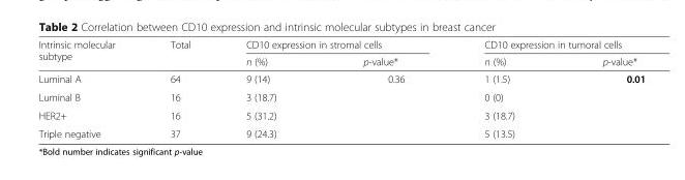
<table><thead><tr><td rowspan="2">Intrinsic molecular subtype</td><td rowspan="2">Total</td><td colspan="2">CD10 expression in stromal cells</td><td colspan="2">CD10 expression in tumoral cells</td></tr><tr><td>n (%)</td><td>p-value*</td><td>n (%)</td><td>p-value*</td></tr></thead><tbody><tr><td>Luminal A</td><td>64</td><td>9 (14)</td><td>0.36</td><td>1 (1.5)</td><td>0.01</td></tr><tr><td>Luminal B</td><td>16</td><td>3 (18.7)</td><td></td><td>0 (0)</td><td></td></tr><tr><td>HER2+</td><td>16</td><td>5 (31.2)</td><td></td><td>3 (18.7)</td><td></td></tr><tr><td>Triple negative</td><td>37</td><td>9 (24.3)</td><td></td><td>5 (13.5)</td><td></td></tr></tbody></table>